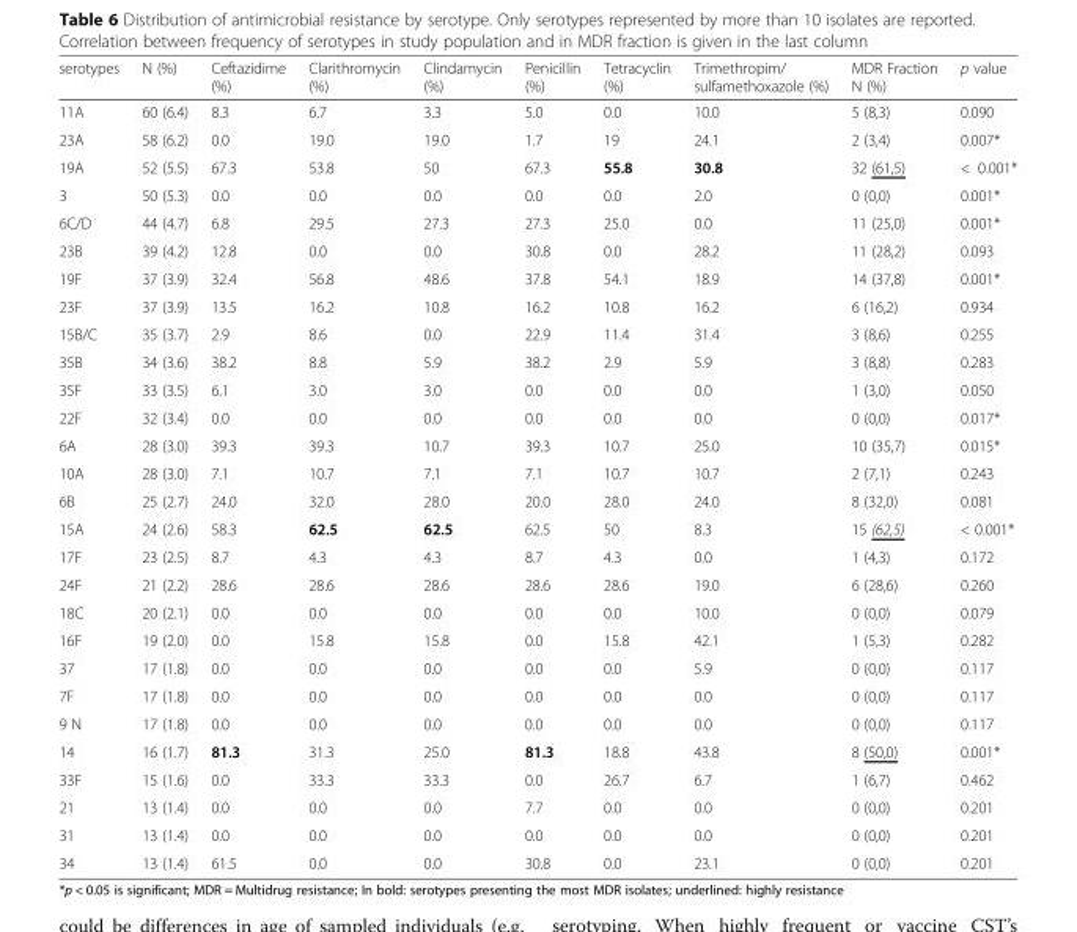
<table><thead><tr><td>serotypes</td><td>N (%)</td><td>Ceftazidime (%)</td><td>Clarithromycin (%)</td><td>Clindamycin (%)</td><td>Penicillin (%)</td><td>Tetracyclin (%)</td><td>Trimethropim/ sulfamethoxazole (%)</td><td>MDR Fraction N (%)</td><td>p value</td></tr></thead><tbody><tr><td>11A</td><td>60 (6.4)</td><td>8.3</td><td>6.7</td><td>3.3</td><td>5.0</td><td>0.0</td><td>10.0</td><td>5 (8,3)</td><td>0.090</td></tr><tr><td>23A</td><td>58 (6.2)</td><td>0.0</td><td>19.0</td><td>19.0</td><td>1.7</td><td>19</td><td>24.1</td><td>2 (3,4)</td><td>0.007*</td></tr><tr><td>19A</td><td>52 (5.5)</td><td>67.3</td><td>53.8</td><td>50</td><td>67.3</td><td>55.8</td><td>30.8</td><td>32 (61,5)</td><td>&lt; 0.001*</td></tr><tr><td>3</td><td>50 (5.3)</td><td>0.0</td><td>0.0</td><td>0.0</td><td>0.0</td><td>0.0</td><td>2.0</td><td>0 (0,0)</td><td>0.001*</td></tr><tr><td>6C/D</td><td>44 (4.7)</td><td>6.8</td><td>29.5</td><td>27.3</td><td>27.3</td><td>25.0</td><td>0.0</td><td>11 (25,0)</td><td>0.001*</td></tr><tr><td>23B</td><td>39 (4.2)</td><td>12.8</td><td>0.0</td><td>0.0</td><td>30.8</td><td>0.0</td><td>28.2</td><td>11 (28,2)</td><td>0.093</td></tr><tr><td>19F</td><td>37 (3.9)</td><td>32.4</td><td>56.8</td><td>48.6</td><td>37.8</td><td>54.1</td><td>18.9</td><td>14 (37,8)</td><td>0.001*</td></tr><tr><td>23F</td><td>37 (3.9)</td><td>13.5</td><td>16.2</td><td>10.8</td><td>16.2</td><td>10.8</td><td>16.2</td><td>6 (16,2)</td><td>0.934</td></tr><tr><td>15B/C</td><td>35 (3.7)</td><td>2.9</td><td>8.6</td><td>0.0</td><td>22.9</td><td>11.4</td><td>31.4</td><td>3 (8,6)</td><td>0.255</td></tr><tr><td>35B</td><td>34 (3.6)</td><td>38.2</td><td>8.8</td><td>5.9</td><td>38.2</td><td>2.9</td><td>5.9</td><td>3 (8,8)</td><td>0.283</td></tr><tr><td>35F</td><td>33 (3.5)</td><td>6.1</td><td>3.0</td><td>3.0</td><td>0.0</td><td>0.0</td><td>0.0</td><td>1 (3,0)</td><td>0.050</td></tr><tr><td>22F</td><td>32 (3.4)</td><td>0.0</td><td>0.0</td><td>0.0</td><td>0.0</td><td>0.0</td><td>0.0</td><td>0 (0,0)</td><td>0.017*</td></tr><tr><td>6A</td><td>28 (3.0)</td><td>39.3</td><td>39.3</td><td>10.7</td><td>39.3</td><td>10.7</td><td>25.0</td><td>10 (35,7)</td><td>0.015*</td></tr><tr><td>10A</td><td>28 (3.0)</td><td>7.1</td><td>10.7</td><td>7.1</td><td>7.1</td><td>10.7</td><td>10.7</td><td>2 (7,1)</td><td>0.243</td></tr><tr><td>6B</td><td>25 (2.7)</td><td>24.0</td><td>32.0</td><td>28.0</td><td>20.0</td><td>28.0</td><td>24.0</td><td>8 (32,0)</td><td>0.081</td></tr><tr><td>15A</td><td>24 (2.6)</td><td>58.3</td><td>62.5</td><td>62.5</td><td>62.5</td><td>50</td><td>8.3</td><td>15 (62,5)</td><td>&lt; 0.001*</td></tr><tr><td>17F</td><td>23 (2.5)</td><td>8.7</td><td>4.3</td><td>4.3</td><td>8.7</td><td>4.3</td><td>0.0</td><td>1 (4,3)</td><td>0.172</td></tr><tr><td>24F</td><td>21 (2.2)</td><td>28.6</td><td>28.6</td><td>28.6</td><td>28.6</td><td>28.6</td><td>19.0</td><td>6 (28,6)</td><td>0.260</td></tr><tr><td>18C</td><td>20 (2.1)</td><td>0.0</td><td>0.0</td><td>0.0</td><td>0.0</td><td>0.0</td><td>10.0</td><td>0 (0,0)</td><td>0.079</td></tr><tr><td>16F</td><td>19 (2.0)</td><td>0.0</td><td>15.8</td><td>15.8</td><td>0.0</td><td>15.8</td><td>42.1</td><td>1 (5,3)</td><td>0.282</td></tr><tr><td>37</td><td>17 (1.8)</td><td>0.0</td><td>0.0</td><td>0.0</td><td>0.0</td><td>0.0</td><td>5.9</td><td>0 (0,0)</td><td>0.117</td></tr><tr><td>7F</td><td>17 (1.8)</td><td>0.0</td><td>0.0</td><td>0.0</td><td>0.0</td><td>0.0</td><td>0.0</td><td>0 (0,0)</td><td>0.117</td></tr><tr><td>9 N</td><td>17 (1.8)</td><td>0.0</td><td>0.0</td><td>0.0</td><td>0.0</td><td>0.0</td><td>0.0</td><td>0 (0,0)</td><td>0.117</td></tr><tr><td>14</td><td>16 (1.7)</td><td>81.3</td><td>31.3</td><td>25.0</td><td>81.3</td><td>18.8</td><td>43.8</td><td>8 (50,0)</td><td>0.001*</td></tr><tr><td>33F</td><td>15 (1.6)</td><td>0.0</td><td>33.3</td><td>33.3</td><td>0.0</td><td>26.7</td><td>6.7</td><td>1 (6,7)</td><td>0.462</td></tr><tr><td>21</td><td>13 (1.4)</td><td>0.0</td><td>0.0</td><td>0.0</td><td>7.7</td><td>0.0</td><td>0.0</td><td>0 (0,0)</td><td>0.201</td></tr><tr><td>31</td><td>13 (1.4)</td><td>0.0</td><td>0.0</td><td>0.0</td><td>0.0</td><td>0.0</td><td>0.0</td><td>0 (0,0)</td><td>0.201</td></tr><tr><td>34</td><td>13 (1.4)</td><td>61.5</td><td>0.0</td><td>0.0</td><td>30.8</td><td>0.0</td><td>23.1</td><td>0 (0,0)</td><td>0.201</td></tr></tbody></table>